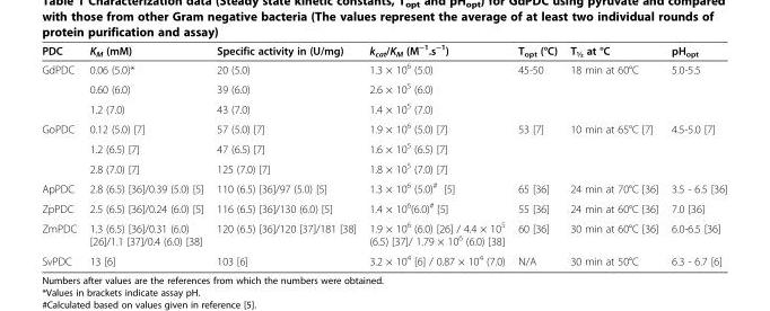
<table><thead><tr><td>PDC</td><td>K<sub>M</sub> (mM)</td><td>Specific activity in (U/mg)</td><td>k<sub>cat</sub>/K<sub>M</sub> (M<sup>−1</sup>.s<sup>−1</sup>)</td><td>T<sub>opt</sub> (°C)</td><td>T<sub>½</sub> at °C</td><td>pH<sub>opt</sub></td></tr></thead><tbody><tr><td rowspan="3">GdPDC</td><td>0.06 (5.0)*</td><td>20 (5.0)</td><td>1.3 × 10<sup>6</sup> (5.0)</td><td rowspan="3">45-50</td><td rowspan="3">18 min at 60°C</td><td rowspan="3">5.0-5.5</td></tr><tr><td>0.60 (6.0)</td><td>39 (6.0)</td><td>2.6 × 10<sup>5</sup> (6.0)</td></tr><tr><td>1.2 (7.0)</td><td>43 (7.0)</td><td>1.4 × 10<sup>5</sup> (7.0)</td></tr><tr><td rowspan="3">GoPDC</td><td>0.12 (5.0) [7]</td><td>57 (5.0) [7]</td><td>1.9 × 10<sup>6</sup> (5.0) [7]</td><td rowspan="3">53 [7]</td><td rowspan="3">10 min at 65°C [7]</td><td rowspan="3">4.5-5.0 [7]</td></tr><tr><td>1.2 (6.5) [7]</td><td>47 (6.5) [7]</td><td>1.6 × 10<sup>5</sup> (6.5) [7]</td></tr><tr><td>2.8 (7.0) [7]</td><td>125 (7.0) [7]</td><td>1.8 × 10<sup>5</sup> (7.0) [7]</td></tr><tr><td>ApPDC</td><td>2.8 (6.5) [36]/0.39 (5.0) [5]</td><td>110 (6.5) [36]/97 (5.0) [5]</td><td>1.3 × 10<sup>6</sup> (5.0)<sup>#</sup> [5]</td><td>65 [36]</td><td>24 min at 70°C [36]</td><td>3.5 - 6.5 [36]</td></tr><tr><td>ZpPDC</td><td>2.5 (6.5) [36]/0.24 (6.0) [5]</td><td>116 (6.5) [36]/130 (6.0) [5]</td><td>1.4 × 10<sup>6</sup>(6.0)<sup>#</sup> [5]</td><td>55 [36]</td><td>24 min at 60°C [36]</td><td>7.0 [36]</td></tr><tr><td>ZmPDC</td><td>1.3 (6.5) [36]/0.31 (6.0) [26]/1.1 [37]/0.4 (6.0) [38]</td><td>120 (6.5) [36]/120 [37]/181 [38]</td><td>1.9 × 10<sup>6</sup> (6.0) [26] / 4.4 × 10<sup>5</sup> (6.5) [37]/ 1.79 × 10<sup>6</sup> (6.0) [38]</td><td>60 [36]</td><td>30 min at 60°C [36]</td><td>6.0-6.5 [36]</td></tr><tr><td>SvPDC</td><td>13 [6]</td><td>103 [6]</td><td>3.2 × 10<sup>4</sup> [6] / 0.87 × 10<sup>4</sup> (7.0)</td><td>N/A</td><td>30 min at 50°C</td><td>6.3 - 6.7 [6]</td></tr></tbody></table>